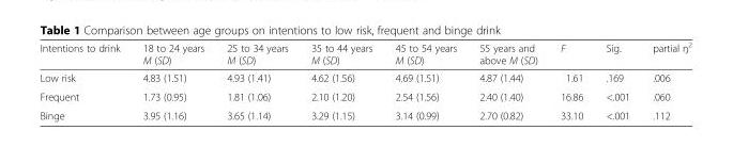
<table><thead><tr><td>Intentions to drink</td><td>18 to 24 years M (SD)</td><td>25 to 34 years M (SD)</td><td>35 to 44 years M (SD)</td><td>45 to 54 years M (SD)</td><td>55 years and above M (SD)</td><td>F</td><td>Sig.</td><td>partial ŋ<sup>2</sup></td></tr></thead><tbody><tr><td>Low risk</td><td>4.83 (1.51)</td><td>4.93 (1.41)</td><td>4.62 (1.56)</td><td>4.69 (1.51)</td><td>4.87 (1.44)</td><td>1.61</td><td>.169</td><td>.006</td></tr><tr><td>Frequent</td><td>1.73 (0.95)</td><td>1.81 (1.06)</td><td>2.10 (1.20)</td><td>2.54 (1.56)</td><td>2.40 (1.40)</td><td>16.86</td><td>&lt;.001</td><td>.060</td></tr><tr><td>Binge</td><td>3.95 (1.16)</td><td>3.65 (1.14)</td><td>3.29 (1.15)</td><td>3.14 (0.99)</td><td>2.70 (0.82)</td><td>33.10</td><td>&lt;.001</td><td>.112</td></tr></tbody></table>